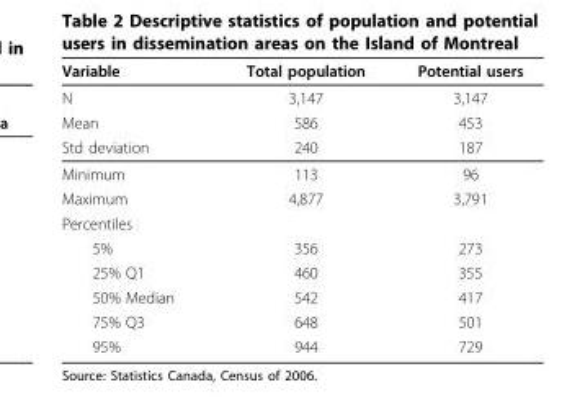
<table><thead><tr><td>Variable</td><td>Total population</td><td>Potential users</td></tr></thead><tbody><tr><td>N</td><td>3,147</td><td>3,147</td></tr><tr><td>Mean</td><td>586</td><td>453</td></tr><tr><td>Std deviation</td><td>240</td><td>187</td></tr><tr><td>Minimum</td><td>113</td><td>96</td></tr><tr><td>Maximum</td><td>4,877</td><td>3,791</td></tr><tr><td colspan="3">Percentiles</td></tr><tr><td>5%</td><td>356</td><td>273</td></tr><tr><td>25% Q1</td><td>460</td><td>355</td></tr><tr><td>50% Median</td><td>542</td><td>417</td></tr><tr><td>75% Q3</td><td>648</td><td>501</td></tr><tr><td>95%</td><td>944</td><td>729</td></tr></tbody></table>